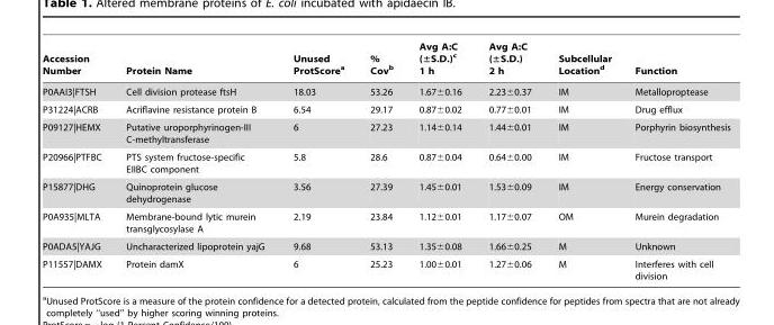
<table><thead><tr><td>Accession Number</td><td>Protein Name</td><td>Unused ProtScore<sup>a</sup></td><td>% Cov<sup>b</sup></td><td>Avg A:C (±S.D.)c 1 h</td><td>Avg A:C (±S.D.) 2 h</td><td>Subcellular Location<sup>d</sup></td><td>Function</td></tr></thead><tbody><tr><td>P0AAI3|FTSH</td><td>Cell division protease ftsH</td><td>18.03</td><td>53.26</td><td>1.67±0.16</td><td>2.23±0.37</td><td>IM</td><td>Metalloproptease</td></tr><tr><td>P31224|ACRB</td><td>Acriflavine resistance protein B</td><td>6.54</td><td>29.17</td><td>0.87±0.02</td><td>0.77±0.01</td><td>IM</td><td>Drug efflux</td></tr><tr><td>P09127|HEMX</td><td>Putative uroporphyrinogen-III C-methyltransferase</td><td>6</td><td>27.23</td><td>1.14±0.14</td><td>1.44±0.01</td><td>IM</td><td>Porphyrin biosynthesis</td></tr><tr><td>P20966|PTFBC</td><td>PTS system fructose-specific EIIBC component</td><td>5.8</td><td>28.6</td><td>0.87±0.04</td><td>0.64±0.00</td><td>IM</td><td>Fructose transport</td></tr><tr><td>P15877|DHG</td><td>Quinoprotein glucose dehydrogenase</td><td>3.56</td><td>27.39</td><td>1.45±0.01</td><td>1.53±0.09</td><td>IM</td><td>Energy conservation</td></tr><tr><td>P0A935|MLTA</td><td>Membrane-bound lytic murein transglycosylase A</td><td>2.19</td><td>23.84</td><td>1.12±0.01</td><td>1.17±0.07</td><td>OM</td><td>Murein degradation</td></tr><tr><td>P0ADA5|YAJG</td><td>Uncharacterized lipoprotein yajG</td><td>9.68</td><td>53.13</td><td>1.35±0.08</td><td>1.66±0.25</td><td>M</td><td>Unknown</td></tr><tr><td>P11557|DAMX</td><td>Protein damX</td><td>6</td><td>25.23</td><td>1.00±0.01</td><td>1.27±0.06</td><td>M</td><td>Interferes with cell division</td></tr></tbody></table>